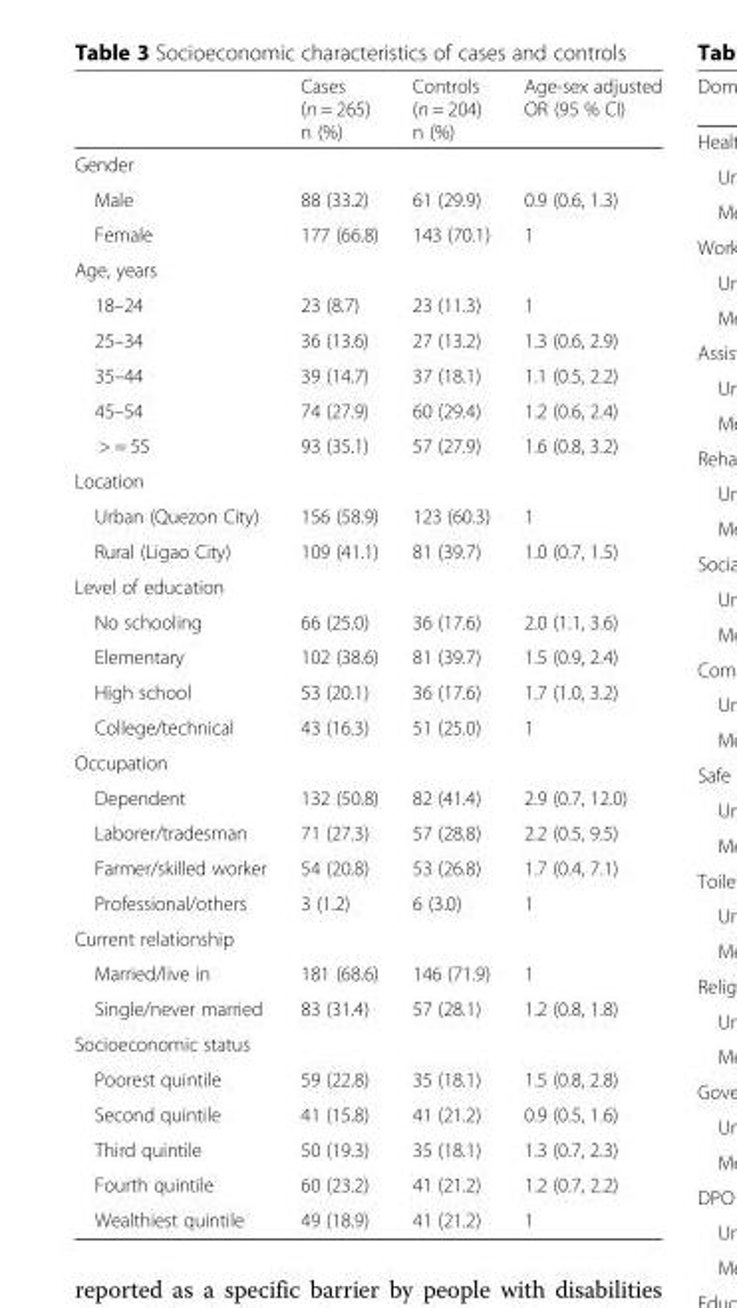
<table><thead><tr><td></td><td>Cases (n = 265) n (%)</td><td>Controls (n = 204) n (%)</td><td>Age-sex adjusted OR (95 % CI)</td></tr></thead><tbody><tr><td colspan="4">Gender</td></tr><tr><td>Male</td><td>88 (33.2)</td><td>61 (29.9)</td><td>0.9 (0.6, 1.3)</td></tr><tr><td>Female</td><td>177 (66.8)</td><td>143 (70.1)</td><td>1</td></tr><tr><td colspan="4">Age, years</td></tr><tr><td>18–24</td><td>23 (8.7)</td><td>23 (11.3)</td><td>1</td></tr><tr><td>25–34</td><td>36 (13.6)</td><td>27 (13.2)</td><td>1.3 (0.6, 2.9)</td></tr><tr><td>35–44</td><td>39 (14.7)</td><td>37 (18.1)</td><td>1.1 (0.5, 2.2)</td></tr><tr><td>45–54</td><td>74 (27.9)</td><td>60 (29.4)</td><td>1.2 (0.6, 2.4)</td></tr><tr><td>&gt; = 55</td><td>93 (35.1)</td><td>57 (27.9)</td><td>1.6 (0.8, 3.2)</td></tr><tr><td colspan="4">Location</td></tr><tr><td>Urban (Quezon City)</td><td>156 (58.9)</td><td>123 (60.3)</td><td>1</td></tr><tr><td>Rural (Ligao City)</td><td>109 (41.1)</td><td>81 (39.7)</td><td>1.0 (0.7, 1.5)</td></tr><tr><td colspan="4">Level of education</td></tr><tr><td>No schooling</td><td>66 (25.0)</td><td>36 (17.6)</td><td>2.0 (1.1, 3.6)</td></tr><tr><td>Elementary</td><td>102 (38.6)</td><td>81 (39.7)</td><td>1.5 (0.9, 2.4)</td></tr><tr><td>High school</td><td>53 (20.1)</td><td>36 (17.6)</td><td>1.7 (1.0, 3.2)</td></tr><tr><td>College/technical</td><td>43 (16.3)</td><td>51 (25.0)</td><td>1</td></tr><tr><td colspan="4">Occupation</td></tr><tr><td>Dependent</td><td>132 (50.8)</td><td>82 (41.4)</td><td>2.9 (0.7, 12.0)</td></tr><tr><td>Laborer/tradesman</td><td>71 (27.3)</td><td>57 (28.8)</td><td>2.2 (0.5, 9.5)</td></tr><tr><td>Farmer/skilled worker</td><td>54 (20.8)</td><td>53 (26.8)</td><td>1.7 (0.4, 7.1)</td></tr><tr><td>Professional/others</td><td>3 (1.2)</td><td>6 (3.0)</td><td>1</td></tr><tr><td colspan="4">Current relationship</td></tr><tr><td>Married/live in</td><td>181 (68.6)</td><td>146 (71.9)</td><td>1</td></tr><tr><td>Single/never married</td><td>83 (31.4)</td><td>57 (28.1)</td><td>1.2 (0.8, 1.8)</td></tr><tr><td colspan="4">Socioeconomic status</td></tr><tr><td>Poorest quintile</td><td>59 (22.8)</td><td>35 (18.1)</td><td>1.5 (0.8, 2.8)</td></tr><tr><td>Second quintile</td><td>41 (15.8)</td><td>41 (21.2)</td><td>0.9 (0.5, 1.6)</td></tr><tr><td>Third quintile</td><td>50 (19.3)</td><td>35 (18.1)</td><td>1.3 (0.7, 2.3)</td></tr><tr><td>Fourth quintile</td><td>60 (23.2)</td><td>41 (21.2)</td><td>1.2 (0.7, 2.2)</td></tr><tr><td>Wealthiest quintile</td><td>49 (18.9)</td><td>41 (21.2)</td><td>1</td></tr></tbody></table>